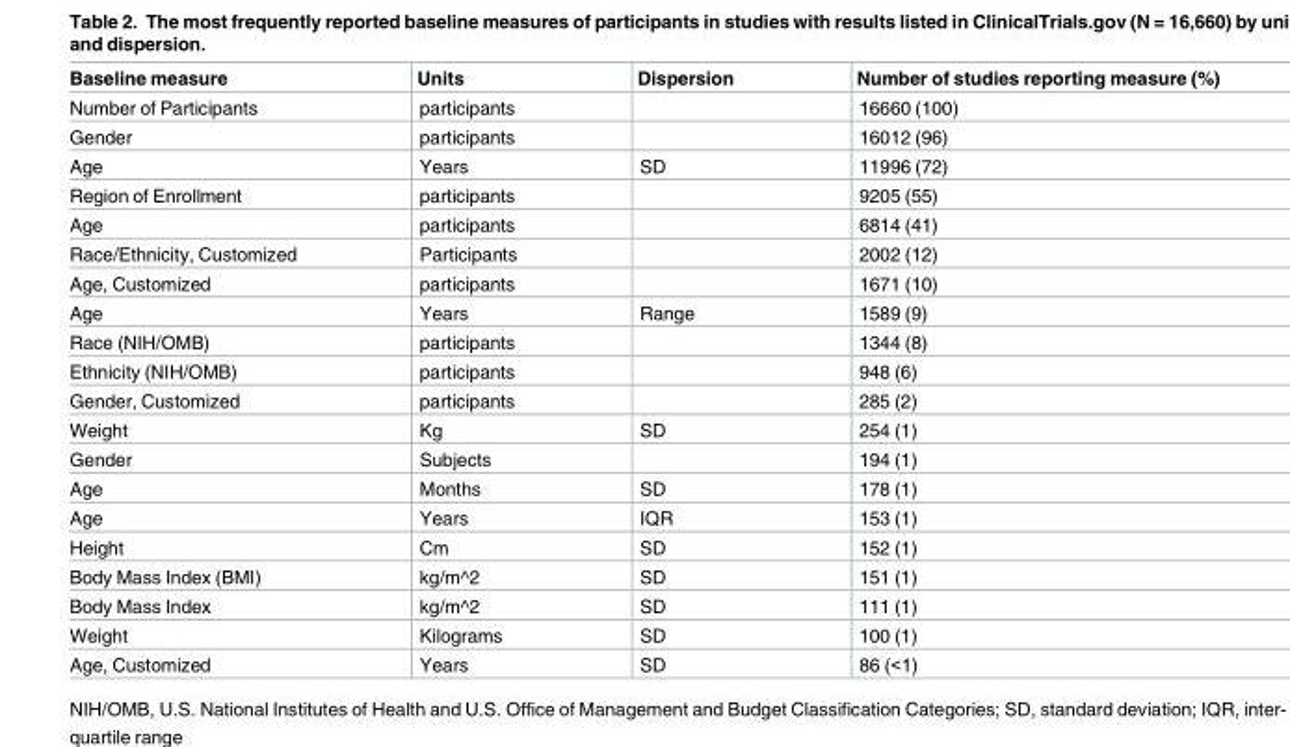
<table><thead><tr><td>Baseline measure</td><td>Units</td><td>Dispersion</td><td>Number of studies reporting measure (%)</td></tr></thead><tbody><tr><td>Number of Participants</td><td>participants</td><td></td><td>16660 (100)</td></tr><tr><td>Gender</td><td>participants</td><td></td><td>16012 (96)</td></tr><tr><td>Age</td><td>Years</td><td>SD</td><td>11996 (72)</td></tr><tr><td>Region of Enrollment</td><td>participants</td><td></td><td>9205 (55)</td></tr><tr><td>Age</td><td>participants</td><td></td><td>6814 (41)</td></tr><tr><td>Race/Ethnicity, Customized</td><td>Participants</td><td></td><td>2002 (12)</td></tr><tr><td>Age, Customized</td><td>participants</td><td></td><td>1671 (10)</td></tr><tr><td>Age</td><td>Years</td><td>Range</td><td>1589 (9)</td></tr><tr><td>Race (NIH/OMB)</td><td>participants</td><td></td><td>1344 (8)</td></tr><tr><td>Ethnicity (NIH/OMB)</td><td>participants</td><td></td><td>948 (6)</td></tr><tr><td>Gender, Customized</td><td>participants</td><td></td><td>285 (2)</td></tr><tr><td>Weight</td><td>Kg</td><td>SD</td><td>254 (1)</td></tr><tr><td>Gender</td><td>Subjects</td><td></td><td>194 (1)</td></tr><tr><td>Age</td><td>Months</td><td>SD</td><td>178 (1)</td></tr><tr><td>Age</td><td>Years</td><td>IQR</td><td>153 (1)</td></tr><tr><td>Height</td><td>Cm</td><td>SD</td><td>152 (1)</td></tr><tr><td>Body Mass Index (BMI)</td><td>kg/m^2</td><td>SD</td><td>151 (1)</td></tr><tr><td>Body Mass Index</td><td>kg/m^2</td><td>SD</td><td>111 (1)</td></tr><tr><td>Weight</td><td>Kilograms</td><td>SD</td><td>100 (1)</td></tr><tr><td>Age, Customized</td><td>Years</td><td>SD</td><td>86 (&lt;1)</td></tr></tbody></table>